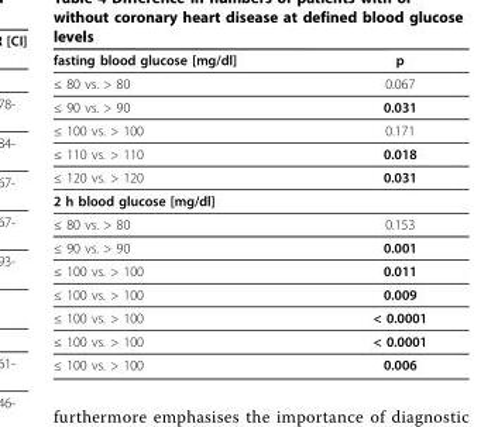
<table><thead><tr><td>fasting blood glucose [mg/dl]</td><td>p</td></tr></thead><tbody><tr><td>≤ 80 vs. &gt; 80</td><td>0.067</td></tr><tr><td>≤ 90 vs. &gt; 90</td><td>0.031</td></tr><tr><td>≤ 100 vs. &gt; 100</td><td>0.171</td></tr><tr><td>≤ 110 vs. &gt; 110</td><td>0.018</td></tr><tr><td>≤ 120 vs. &gt; 120</td><td>0.031</td></tr><tr><td colspan="2">2 h blood glucose [mg/dl]</td></tr><tr><td>≤ 80 vs. &gt; 80</td><td>0.153</td></tr><tr><td>≤ 90 vs. &gt; 90</td><td>0.001</td></tr><tr><td>≤ 100 vs. &gt; 100</td><td>0.011</td></tr><tr><td>≤ 100 vs. &gt; 100</td><td>0.009</td></tr><tr><td>≤ 100 vs. &gt; 100</td><td>&lt; 0.0001</td></tr><tr><td>≤ 100 vs. &gt; 100</td><td>&lt; 0.0001</td></tr><tr><td>≤ 100 vs. &gt; 100</td><td>0.006</td></tr></tbody></table>